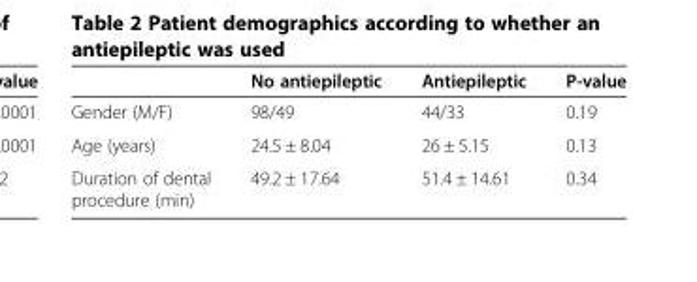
<table><thead><tr><td></td><td>No antiepileptic</td><td>Antiepileptic</td><td>P-value</td></tr></thead><tbody><tr><td>Gender (M/F)</td><td>98/49</td><td>44/33</td><td>0.19</td></tr><tr><td>Age (years)</td><td>24.5 ± 8.04</td><td>26 ± 5.15</td><td>0.13</td></tr><tr><td>Duration of dental procedure (min)</td><td>49.2 ± 17.64</td><td>51.4 ± 14.61</td><td>0.34</td></tr></tbody></table>